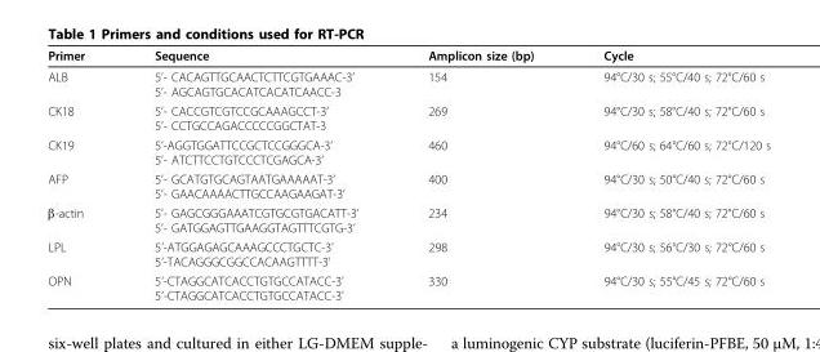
<table><thead><tr><td>Primer</td><td>Sequence</td><td>Amplicon size (bp)</td><td>Cycle</td></tr></thead><tbody><tr><td>ALB</td><td>5’- CACAGTTGCAACTCTTCGTGAAAC-3’ 5’- AGCAGTGCACATCACATCAACC-3</td><td>154</td><td>94°C/30 s; 55°C/40 s; 72°C/60 s</td></tr><tr><td>CK18</td><td>5’- CACCGTCGTCCGCAAAGCCT-3’ 5’- CCTGCCAGACCCCCGGCTAT-3</td><td>269</td><td>94°C/30 s; 58°C/40 s; 72°C/60 s</td></tr><tr><td>CK19</td><td>5’-AGGTGGATTCCGCTCCGGGCA-3’ 5’- ATCTTCCTGTCCCTCGAGCA-3’</td><td>460</td><td>94°C/60 s; 64°C/60 s; 72°C/120 s</td></tr><tr><td>AFP</td><td>5’- GCATGTGCAGTAATGAAAAAT-3’ 5’- GAACAAAACTTGCCAAGAAGAT-3’</td><td>400</td><td>94°C/30 s; 50°C/40 s; 72°C/60 s</td></tr><tr><td>β-actin</td><td>5’- GAGCGGGAAATCGTGCGTGACATT-3’ 5’- GATGGAGTTGAAGGTAGTTTCGTG-3’</td><td>234</td><td>94°C/30 s; 58°C/40 s; 72°C/60 s</td></tr><tr><td>LPL</td><td>5’-ATGGAGAGCAAAGCCCTGCTC-3’ 5’-TACAGGGCGGCCACAAGTTTT-3’</td><td>298</td><td>94°C/30 s; 56°C/30 s; 72°C/60 s</td></tr><tr><td>OPN</td><td>5’-CTAGGCATCACCTGTGCCATACC-3’ 5’-CTAGGCATCACCTGTGCCATACC-3’</td><td>330</td><td>94°C/30 s; 55°C/45 s; 72°C/60 s</td></tr></tbody></table>